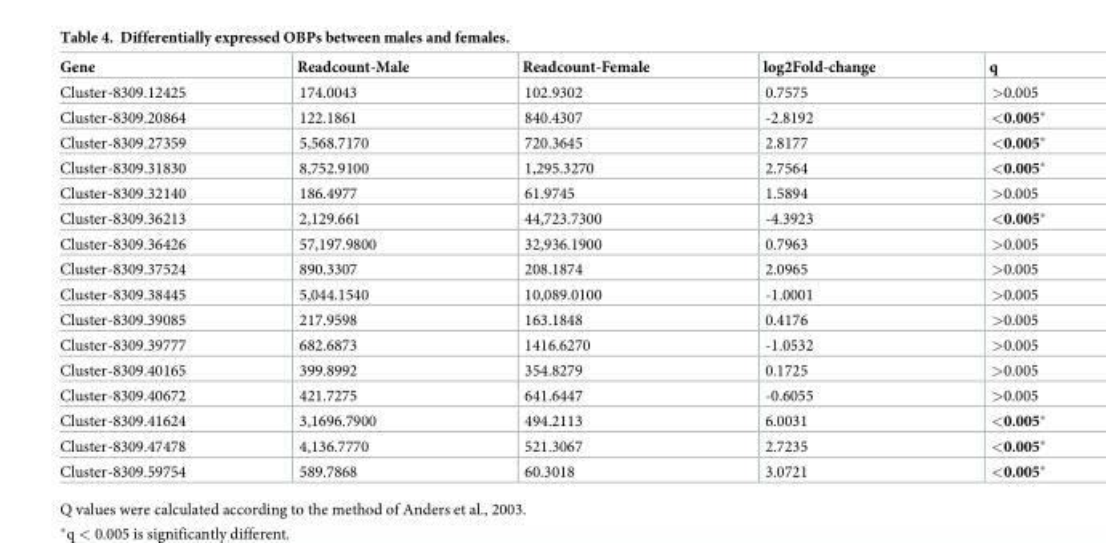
<table><thead><tr><td>Gene</td><td>Readcount-Male</td><td>Readcount-Female</td><td>log2Fold-change</td><td>q</td></tr></thead><tbody><tr><td>Cluster-8309.12425</td><td>174.0043</td><td>102.9302</td><td>0.7575</td><td>&gt;0.005</td></tr><tr><td>Cluster-8309.20864</td><td>122.1861</td><td>840.4307</td><td>-2.8192</td><td>&lt;0.005*</td></tr><tr><td>Cluster-8309.27359</td><td>5,568.7170</td><td>720.3645</td><td>2.8177</td><td>&lt;0.005*</td></tr><tr><td>Cluster-8309.31830</td><td>8,752.9100</td><td>1,295.3270</td><td>2.7564</td><td>&lt;0.005*</td></tr><tr><td>Cluster-8309.32140</td><td>186.4977</td><td>61.9745</td><td>1.5894</td><td>&gt;0.005</td></tr><tr><td>Cluster-8309.36213</td><td>2,129.661</td><td>44,723.7300</td><td>-4.3923</td><td>&lt;0.005*</td></tr><tr><td>Cluster-8309.36426</td><td>57,197.9800</td><td>32,936.1900</td><td>0.7963</td><td>&gt;0.005</td></tr><tr><td>Cluster-8309.37524</td><td>890.3307</td><td>208.1874</td><td>2.0965</td><td>&gt;0.005</td></tr><tr><td>Cluster-8309.38445</td><td>5,044.1540</td><td>10,089.0100</td><td>-1.0001</td><td>&gt;0.005</td></tr><tr><td>Cluster-8309.39085</td><td>217.9598</td><td>163.1848</td><td>0.4176</td><td>&gt;0.005</td></tr><tr><td>Cluster-8309.39777</td><td>682.6873</td><td>1416.6270</td><td>-1.0532</td><td>&gt;0.005</td></tr><tr><td>Cluster-8309.40165</td><td>399.8992</td><td>354.8279</td><td>0.1725</td><td>&gt;0.005</td></tr><tr><td>Cluster-8309.40672</td><td>421.7275</td><td>641.6447</td><td>-0.6055</td><td>&gt;0.005</td></tr><tr><td>Cluster-8309.41624</td><td>3,1696.7900</td><td>494.2113</td><td>6.0031</td><td>&lt;0.005*</td></tr><tr><td>Cluster-8309.47478</td><td>4,136.7770</td><td>521.3067</td><td>2.7235</td><td>&lt;0.005*</td></tr><tr><td>Cluster-8309.59754</td><td>589.7868</td><td>60.3018</td><td>3.0721</td><td>&lt;0.005*</td></tr></tbody></table>